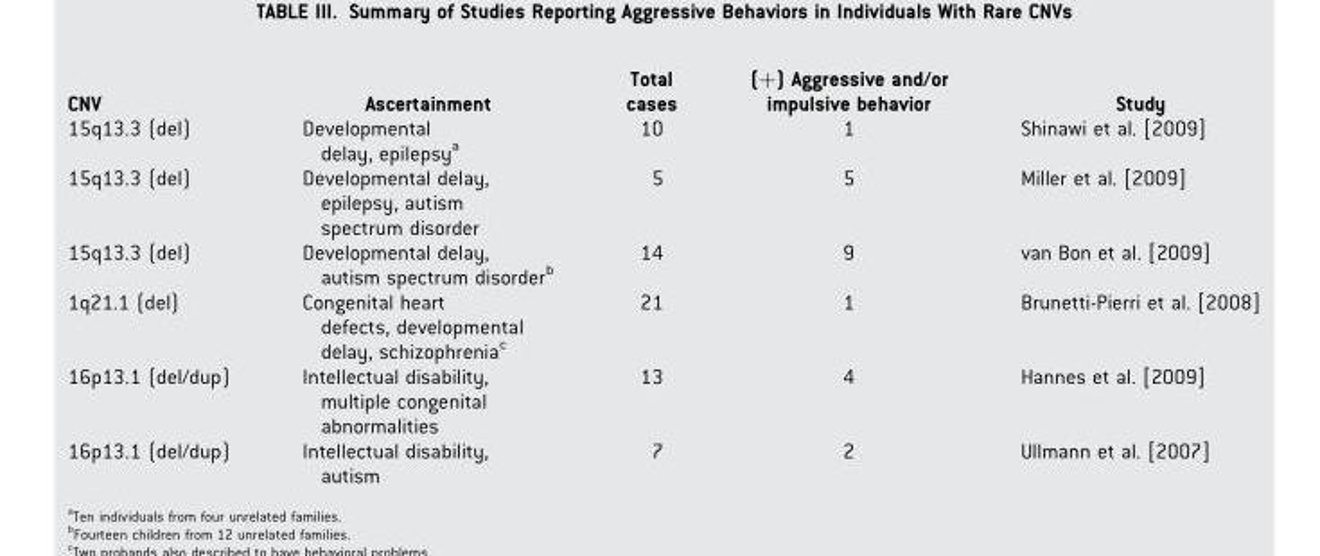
<table><thead><tr><td>CNV</td><td>Ascertainment</td><td>Total cases</td><td>(+) Aggressive and/or impulsive behavior</td><td>Study</td></tr></thead><tbody><tr><td>15q13.3 (del)</td><td>Developmental delay, epilepsy<sup>a</sup></td><td>10</td><td>1</td><td>Shinawi et al. [2009]</td></tr><tr><td>15q13.3 (del)</td><td>Developmental delay, epilepsy, autism spectrum disorder</td><td>5</td><td>5</td><td>Miller et al. [2009]</td></tr><tr><td>15q13.3 (del)</td><td>Developmental delay, autism spectrum disorder<sup>b</sup></td><td>14</td><td>9</td><td>van Bon et al. [2009]</td></tr><tr><td>1q21.1 (del)</td><td>Congenital heart defects, developmental delay, schizophrenia<sup>c</sup></td><td>21</td><td>1</td><td>Brunetti-Pierri et al. [2008]</td></tr><tr><td>16p13.1 (del/dup)</td><td>Intellectual disability, multiple congenital abnormalities</td><td>13</td><td>4</td><td>Hannes et al. [2009]</td></tr><tr><td>16p13.1 (del/dup)</td><td>Intellectual disability, autism</td><td>7</td><td>2</td><td>Ullmann et al. [2007]</td></tr></tbody></table>